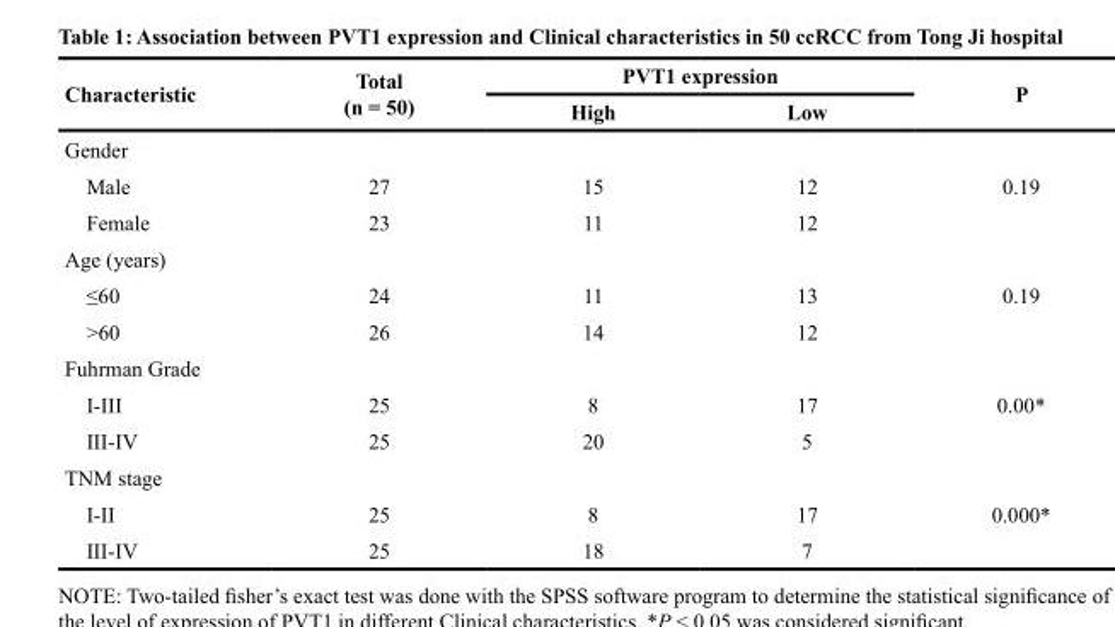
<table><thead><tr><td rowspan="2">Characteristic</td><td rowspan="2">Total (n = 50)</td><td colspan="2">PVT1 expression</td><td rowspan="2">P</td></tr><tr><td>High</td><td>Low</td></tr></thead><tbody><tr><td colspan="5">Gender</td></tr><tr><td>Male</td><td>27</td><td>15</td><td>12</td><td>0.19</td></tr><tr><td>Female</td><td>23</td><td>11</td><td>12</td><td></td></tr><tr><td colspan="5">Age (years)</td></tr><tr><td>≤60</td><td>24</td><td>11</td><td>13</td><td>0.19</td></tr><tr><td>&gt;60</td><td>26</td><td>14</td><td>12</td><td></td></tr><tr><td colspan="5">Fuhrman Grade</td></tr><tr><td>I-III</td><td>25</td><td>8</td><td>17</td><td>0.00*</td></tr><tr><td>III-IV</td><td>25</td><td>20</td><td>5</td><td></td></tr><tr><td colspan="5">TNM stage</td></tr><tr><td>I-II</td><td>25</td><td>8</td><td>17</td><td>0.000*</td></tr><tr><td>III-IV</td><td>25</td><td>18</td><td>7</td><td></td></tr></tbody></table>